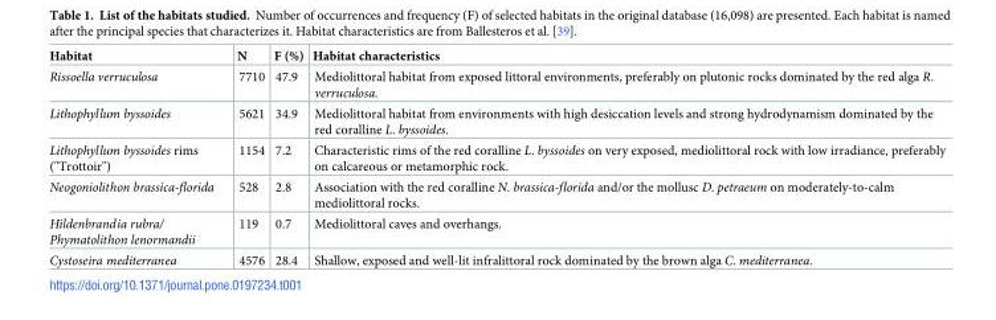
<table><thead><tr><td>Habitat</td><td>N</td><td>F (%)</td><td>Habitat characteristics</td></tr></thead><tbody><tr><td>Rissoella verruculosa</td><td>7710</td><td>47.9</td><td>Mediolittoral habitat from exposed littoral environments, preferably on plutonic rocks dominated by the red alga R. verruculosa.</td></tr><tr><td>Lithophyllum byssoides</td><td>5621</td><td>34.9</td><td>Mediolittoral habitat from environments with high desiccation levels and strong hydrodynamism dominated by the red coralline L. byssoides.</td></tr><tr><td>Lithophyllum byssoides rims (&quot;Trottoir&quot;)</td><td>1154</td><td>7.2</td><td>Characteristic rims of the red coralline L. byssoides on very exposed, mediolittoral rock with low irradiance, preferably on calcareous or metamorphic rock.</td></tr><tr><td>Neogoniolithon brassica-florida</td><td>528</td><td>2.8</td><td>Association with the red coralline N. brassica-florida and/or the mollusc D. petraeum on moderately-to-calm mediolittoral rocks.</td></tr><tr><td>Hildenbrandia rubra/ Phymatolithon lenormandii</td><td>119</td><td>0.7</td><td>Mediolittoral caves and overhangs.</td></tr><tr><td>Cystoseira mediterranea</td><td>4576</td><td>28.4</td><td>Shallow, exposed and well-lit infralittoral rock dominated by the brown alga C. mediterranea.</td></tr></tbody></table>